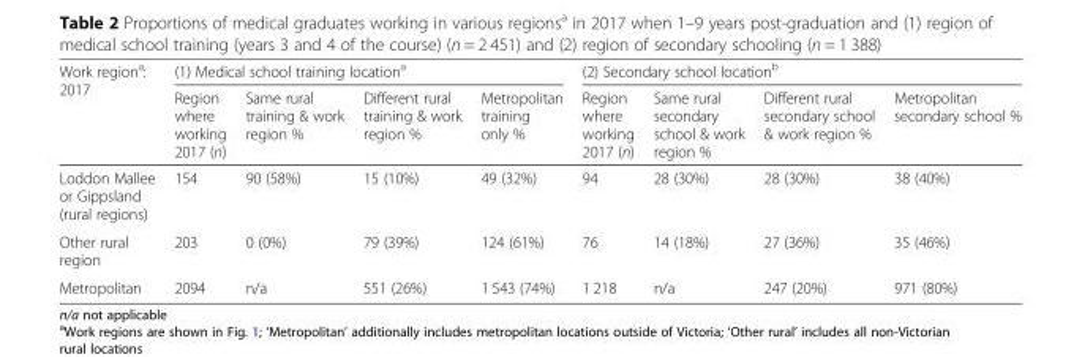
<table><thead><tr><td rowspan="2">Work region<sup>a</sup>: 2017</td><td colspan="4">(1) Medical school training location<sup>a</sup></td><td colspan="4">(2) Secondary school location<sup>b</sup></td></tr><tr><td>Region where working 2017 (n)</td><td>Same rural training &amp; work region %</td><td>Different rural training &amp; work region %</td><td>Metropolitan training only %</td><td>Region where working 2017 (n)</td><td>Same rural secondary school &amp; work region %</td><td>Different rural secondary school &amp; work region %</td><td>Metropolitan secondary school %</td></tr></thead><tbody><tr><td>Loddon Mallee or Gippsland (rural regions)</td><td>154</td><td>90 (58%)</td><td>15 (10%)</td><td>49 (32%)</td><td>94</td><td>28 (30%)</td><td>28 (30%)</td><td>38 (40%)</td></tr><tr><td>Other rural region</td><td>203</td><td>0 (0%)</td><td>79 (39%)</td><td>124 (61%)</td><td>76</td><td>14 (18%)</td><td>27 (36%)</td><td>35 (46%)</td></tr><tr><td>Metropolitan</td><td>2094</td><td>n/a</td><td>551 (26%)</td><td>1 543 (74%)</td><td>1 218</td><td>n/a</td><td>247 (20%)</td><td>971 (80%)</td></tr></tbody></table>